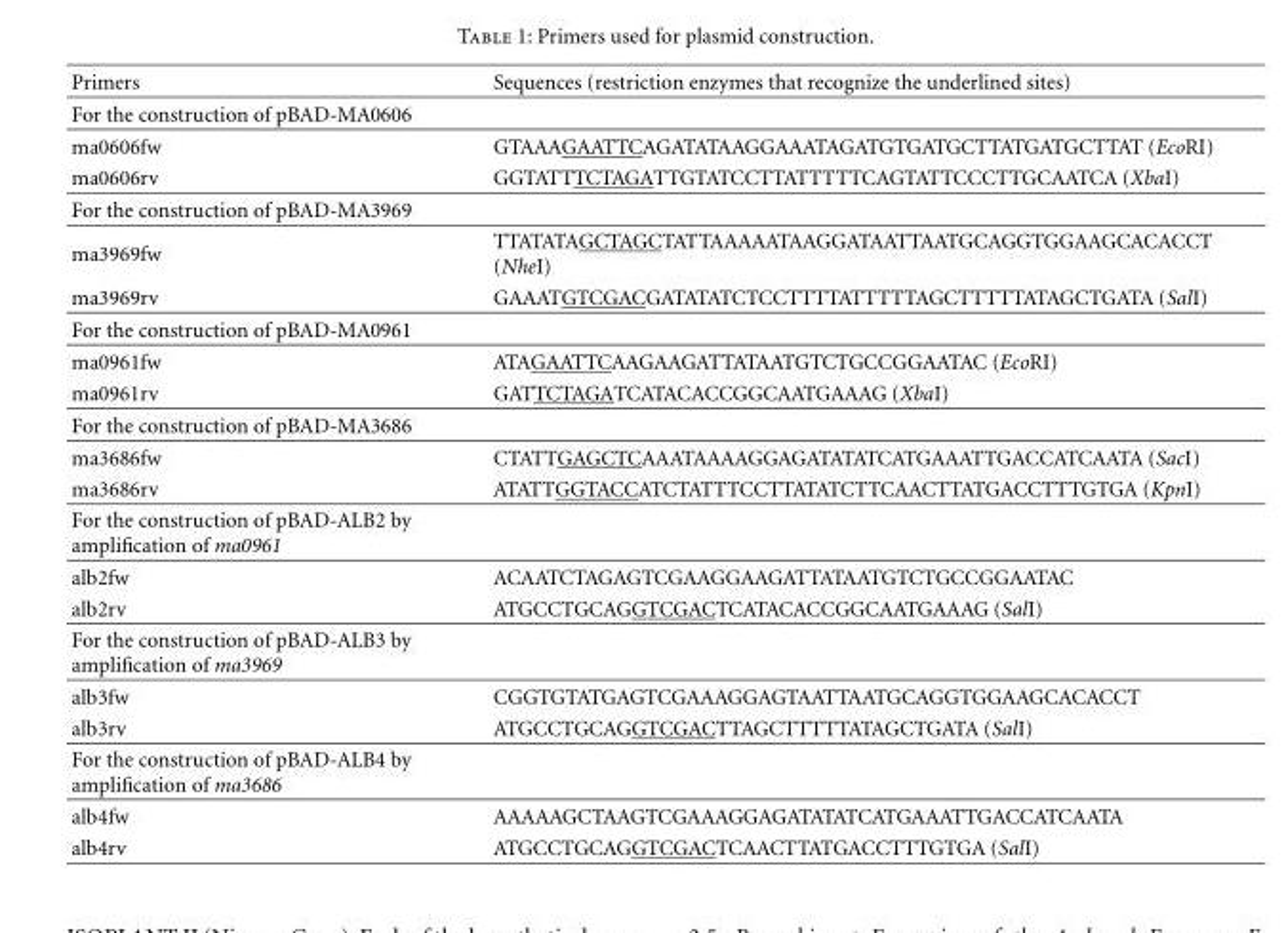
<table><thead><tr><td>Primers</td><td>Sequences (restriction enzymes that recognize the underlined sites)</td></tr></thead><tbody><tr><td colspan="2">For the construction of pBAD-MA0606</td></tr><tr><td>ma0606fw</td><td>GTAAAGAATTCAGATATAAGGAAATAGATGTGATGCTTATGATGCTTAT (EcoRI)</td></tr><tr><td>ma0606rv</td><td>GGTATTTCTAGATTGTATCCTTATTTTTCAGTATTCCCTTGCAATCA (XbaI)</td></tr><tr><td colspan="2">For the construction of pBAD-MA3969</td></tr><tr><td>ma3969fw</td><td>TTATATAGCTAGCTATTAAAAATAAGGATAATTAATGCAGGTGGAAGCACACCT (NheI)</td></tr><tr><td>ma3969rv</td><td>GAAATGTCGACGATATATCTCCTTTTATTTTTAGCTTTTTATAGCTGATA (SalI)</td></tr><tr><td colspan="2">For the construction of pBAD-MA0961</td></tr><tr><td>ma0961fw</td><td>ATAGAATTCAAGAAGATTATAATGTCTGCCGGAATAC (EcoRI)</td></tr><tr><td>ma0961rv</td><td>GATTCTAGATCATACACCGGCAATGAAAG (XbaI)</td></tr><tr><td colspan="2">For the construction of pBAD-MA3686</td></tr><tr><td>ma3686fw</td><td>CTATTGAGCTCAAATAAAAGGAGATATATCATGAAATTGACCATCAATA (SacI)</td></tr><tr><td>ma3686rv</td><td>ATATTGGTACCATCTATTTCCTTATATCTTCAACTTATGACCTTTGTGA (KpnI)</td></tr><tr><td colspan="2">For the construction of pBAD-ALB2 by amplification of ma0961</td></tr><tr><td>alb2fw</td><td>ACAATCTAGAGTCGAAGGAAGATTATAATGTCTGCCGGAATAC</td></tr><tr><td>alb2rv</td><td>ATGCCTGCAGGTCGACTCATACACCGGCAATGAAAG (SalI)</td></tr><tr><td colspan="2">For the construction of pBAD-ALB3 by amplification of ma3969</td></tr><tr><td>alb3fw</td><td>CGGTGTATGAGTCGAAAGGAGTAATTAATGCAGGTGGAAGCACACCT</td></tr><tr><td>alb3rv</td><td>ATGCCTGCAGGTCGACTTAGCTTTTTATAGCTGATA (SalI)</td></tr><tr><td colspan="2">For the construction of pBAD-ALB4 by amplification of ma3686</td></tr><tr><td>alb4fw</td><td>AAAAAGCTAAGTCGAAAGGAGATATATCATGAAATTGACCATCAATA</td></tr><tr><td>alb4rv</td><td>ATGCCTGCAGGTCGACTCAACTTATGACCTTTGTGA (SalI)</td></tr></tbody></table>